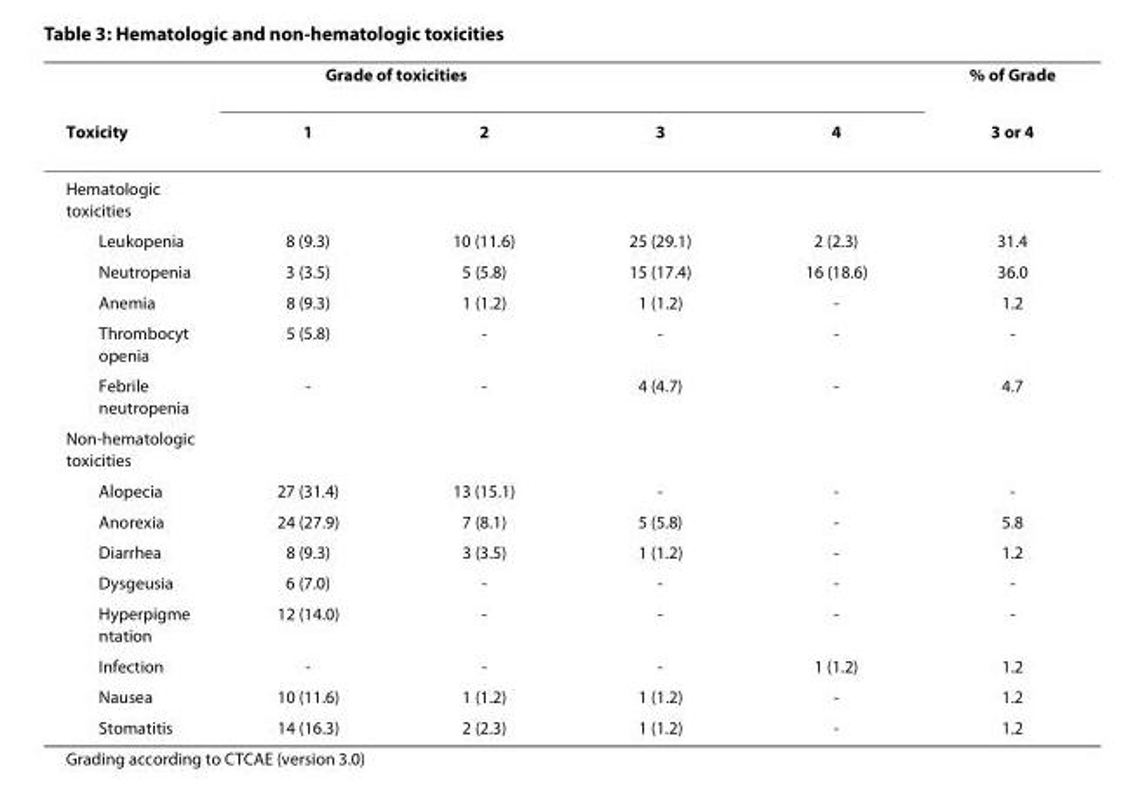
<table><thead><tr><td rowspan="2">Toxicity</td><td colspan="2">Grade of toxicities</td><td rowspan="2">3</td><td rowspan="2">4</td><td rowspan="2">% of Grade 3 or 4</td></tr><tr><td>1</td><td>2</td></tr></thead><tbody><tr><td colspan="6">Hematologic toxicities</td></tr><tr><td>Leukopenia</td><td>8 (9.3)</td><td>10 (11.6)</td><td>25 (29.1)</td><td>2 (2.3)</td><td>31.4</td></tr><tr><td>Neutropenia</td><td>3 (3.5)</td><td>5 (5.8)</td><td>15 (17.4)</td><td>16 (18.6)</td><td>36.0</td></tr><tr><td>Anemia</td><td>8 (9.3)</td><td>1 (1.2)</td><td>1 (1.2)</td><td>-</td><td>1.2</td></tr><tr><td>Thrombocyt openia</td><td>5 (5.8)</td><td>-</td><td>-</td><td>-</td><td>-</td></tr><tr><td>Febrile neutropenia</td><td>-</td><td>-</td><td>4 (4.7)</td><td>-</td><td>4.7</td></tr><tr><td colspan="6">Non-hematologic toxicities</td></tr><tr><td>Alopecia</td><td>27 (31.4)</td><td>13 (15.1)</td><td>-</td><td>-</td><td>-</td></tr><tr><td>Anorexia</td><td>24 (27.9)</td><td>7 (8.1)</td><td>5 (5.8)</td><td>-</td><td>5.8</td></tr><tr><td>Diarrhea</td><td>8 (9.3)</td><td>3 (3.5)</td><td>1 (1.2)</td><td>-</td><td>1.2</td></tr><tr><td>Dysgeusia</td><td>6 (7.0)</td><td>-</td><td>-</td><td>-</td><td>-</td></tr><tr><td>Hyperpigme ntation</td><td>12 (14.0)</td><td>-</td><td>-</td><td>-</td><td>-</td></tr><tr><td>Infection</td><td>-</td><td>-</td><td>-</td><td>1 (1.2)</td><td>1.2</td></tr><tr><td>Nausea</td><td>10 (11.6)</td><td>1 (1.2)</td><td>1 (1.2)</td><td>-</td><td>1.2</td></tr><tr><td>Stomatitis</td><td>14 (16.3)</td><td>2 (2.3)</td><td>1 (1.2)</td><td>-</td><td>1.2</td></tr></tbody></table>